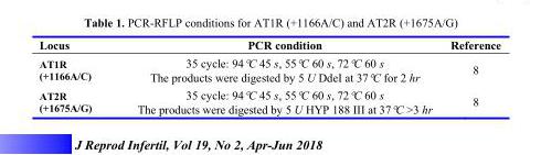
<table><thead><tr><td>Locus</td><td>PCR condition</td><td>Reference</td></tr></thead><tbody><tr><td>AT1R (+1166A/C)</td><td>35 cycle: 94°C 45 s, 55°C 60 s, 72°C 60 s The products were digested by 5 U DdeI at 37°C for 2 hr</td><td>8</td></tr><tr><td>AT2R (+1675A/G)</td><td>35 cycle: 94°C 45 s, 55°C 60 s, 72°C 60 s The products were digested by 5 U HYP 188 III at 37°C &gt;3 hr</td><td>8</td></tr></tbody></table>